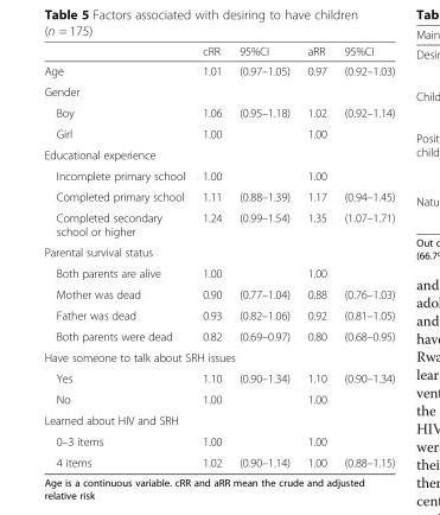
<table><thead><tr><td></td><td>cRR</td><td>95%CI</td><td>aRR</td><td>95%CI</td></tr></thead><tbody><tr><td>Age</td><td>1.01</td><td>(0.97–1.05)</td><td>0.97</td><td>(0.92–1.03)</td></tr><tr><td colspan="5">Gender</td></tr><tr><td>Boy</td><td>1.06</td><td>(0.95–1.18)</td><td>1.02</td><td>(0.92–1.14)</td></tr><tr><td>Girl</td><td>1.00</td><td></td><td>1.00</td><td></td></tr><tr><td colspan="5">Educational experience</td></tr><tr><td>Incomplete primary school</td><td>1.00</td><td></td><td>1.00</td><td></td></tr><tr><td>Completed primary school</td><td>1.11</td><td>(0.88–1.39)</td><td>1.17</td><td>(0.94–1.45)</td></tr><tr><td>Completed secondary school or higher</td><td>1.24</td><td>(0.99–1.54)</td><td>1.35</td><td>(1.07–1.71)</td></tr><tr><td colspan="5">Parental survival status</td></tr><tr><td>Both parents are alive</td><td>1.00</td><td></td><td>1.00</td><td></td></tr><tr><td>Mother was dead</td><td>0.90</td><td>(0.77–1.04)</td><td>0.88</td><td>(0.76–1.03)</td></tr><tr><td>Father was dead</td><td>0.93</td><td>(0.82–1.06)</td><td>0.92</td><td>(0.81–1.05)</td></tr><tr><td>Both parents were dead</td><td>0.82</td><td>(0.69–0.97)</td><td>0.80</td><td>(0.68–0.95)</td></tr><tr><td colspan="5">Have someone to talk about SRH issues</td></tr><tr><td>Yes</td><td>1.10</td><td>(0.90–1.34)</td><td>1.10</td><td>(0.90–1.34)</td></tr><tr><td>No</td><td>1.00</td><td></td><td>1.00</td><td></td></tr><tr><td colspan="5">Learned about HIV and SRH</td></tr><tr><td>0–3 items</td><td>1.00</td><td></td><td>1.00</td><td></td></tr><tr><td>4 items</td><td>1.02</td><td>(0.90–1.14)</td><td>1.00</td><td>(0.88–1.15)</td></tr></tbody></table>